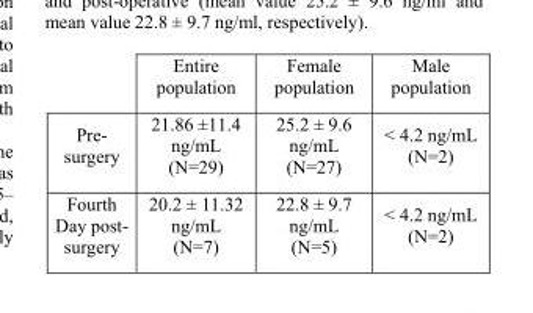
<table><thead><tr><td></td><td>Entire population</td><td>Female population</td><td>Male population</td></tr></thead><tbody><tr><td>Pre- surgery</td><td>21.86 ±11.4 ng/mL (N=29)</td><td>25.2 ± 9.6 ng/mL (N=27)</td><td>&lt; 4.2 ng/mL (N=2)</td></tr><tr><td>Fourth Day post- surgery</td><td>20.2 ± 11.32 ng/mL (N=7)</td><td>22.8 ± 9.7 ng/mL (N=5)</td><td>&lt; 4.2 ng/mL (N=2)</td></tr></tbody></table>